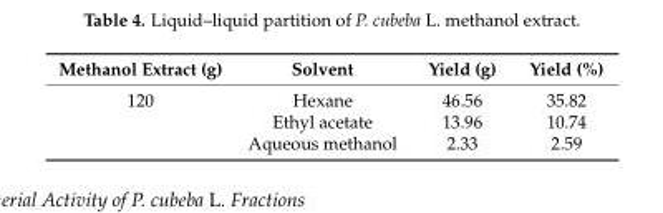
<table><thead><tr><td>Methanol Extract (g)</td><td>Solvent</td><td>Yield (g)</td><td>Yield (%)</td></tr></thead><tbody><tr><td rowspan="3">120</td><td>Hexane</td><td>46.56</td><td>35.82</td></tr><tr><td>Ethyl acetate</td><td>13.96</td><td>10.74</td></tr><tr><td>Aqueous methanol</td><td>2.33</td><td>2.59</td></tr></tbody></table>